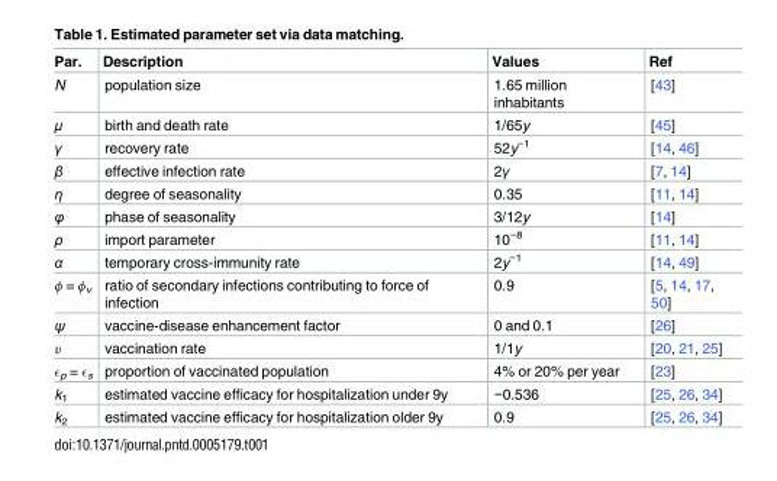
<table><thead><tr><td>Par.</td><td>Description</td><td>Values</td><td>Ref</td></tr></thead><tbody><tr><td>N</td><td>population size</td><td>1.65 million inhabitants</td><td>[43]</td></tr><tr><td>μ</td><td>birth and death rate</td><td>1/65y</td><td>[45]</td></tr><tr><td>γ</td><td>recovery rate</td><td>52y<sup>−1</sup></td><td>[14, 46]</td></tr><tr><td>β</td><td>effective infection rate</td><td>2γ</td><td>[7, 14]</td></tr><tr><td>η</td><td>degree of seasonality</td><td>0.35</td><td>[11, 14]</td></tr><tr><td>φ</td><td>phase of seasonality</td><td>3/12y</td><td>[14]</td></tr><tr><td>ρ</td><td>import parameter</td><td>10<sup>−8</sup></td><td>[11, 14]</td></tr><tr><td>α</td><td>temporary cross-immunity rate</td><td>2y<sup>−1</sup></td><td>[14, 49]</td></tr><tr><td>ϕ = ϕ<sub>v</sub></td><td>ratio of secondary infections contributing to force of infection</td><td>0.9</td><td>[5, 14, 17, 50]</td></tr><tr><td>ψ</td><td>vaccine-disease enhancement factor</td><td>0 and 0.1</td><td>[26]</td></tr><tr><td>υ</td><td>vaccination rate</td><td>1/1y</td><td>[20, 21, 25]</td></tr><tr><td>ϵ<sub>p</sub> = ϵ<sub>s</sub></td><td>proportion of vaccinated population</td><td>4% or 20% per year</td><td>[23]</td></tr><tr><td>k<sub>1</sub></td><td>estimated vaccine efficacy for hospitalization under 9y</td><td>−0.536</td><td>[25, 26, 34]</td></tr><tr><td>k<sub>2</sub></td><td>estimated vaccine efficacy for hospitalization older 9y</td><td>0.9</td><td>[25, 26, 34]</td></tr></tbody></table>